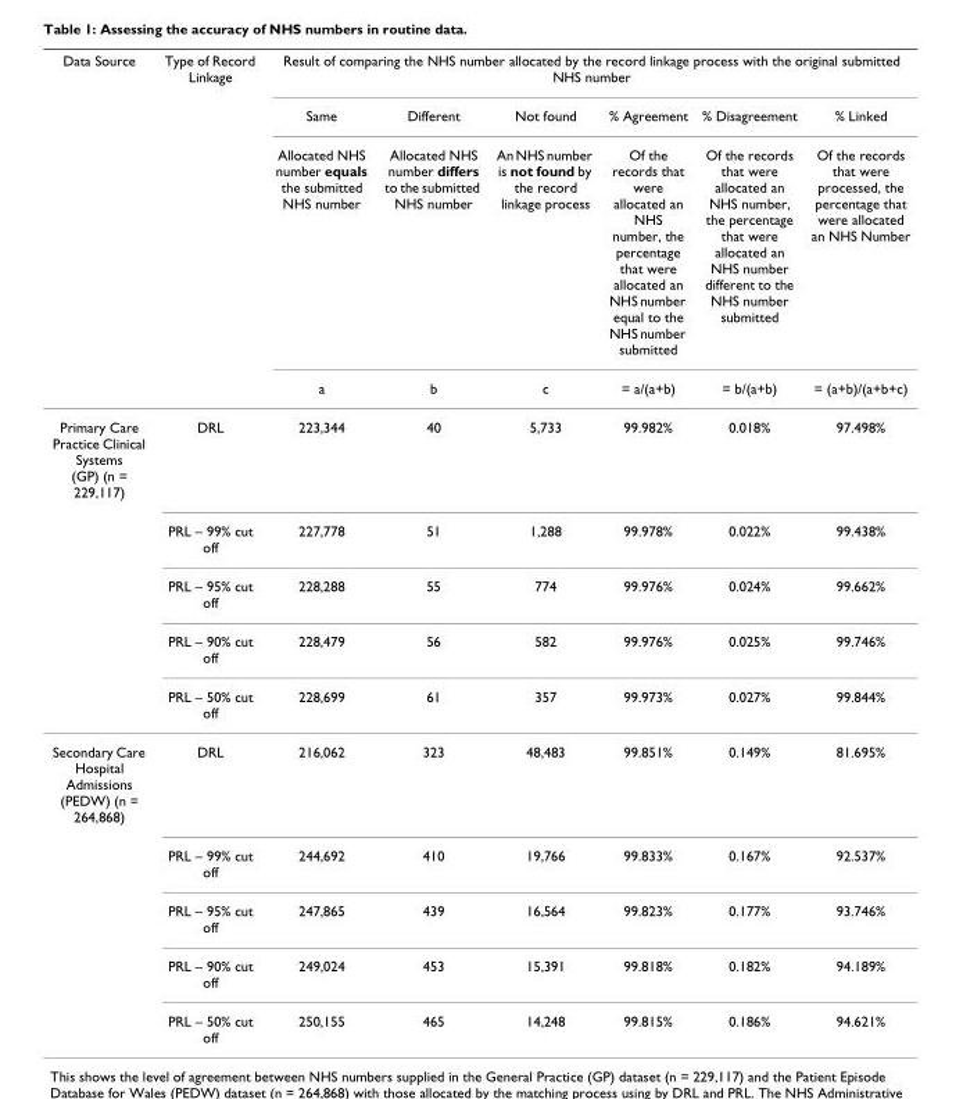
<table><thead><tr><td rowspan="4">Data Source</td><td rowspan="4">Type of Record Linkage</td><td colspan="6">Result of comparing the NHS number allocated by the record linkage process with the original submitted NHS number</td></tr><tr><td rowspan="3">Same Allocated NHS number equals the submitted NHS number a</td><td rowspan="3">Different Allocated NHS number differs to the submitted NHS number b</td><td rowspan="3">Not found An NHS number is not found by the record linkage process c</td><td rowspan="3">% Agreement Of the records that were allocated an NHS number, the percentage that were allocated an NHS number equal to the NHS number submitted = a/(a+b)</td><td rowspan="3">% Disagreement Of the records that were allocated an NHS number, the percentage that were allocated an NHS number different to the NHS number submitted = b/(a+b)</td><td rowspan="3">% Linked Of the records that were processed, the percentage that were allocated an NHS Number = (a+b)/(a+b+c)</td></tr><tr></tr><tr></tr></thead><tbody><tr><td rowspan="5">Primary Care Practice Clinical Systems (GP) (n = 229,117)</td><td>DRL</td><td>223,344</td><td>40</td><td>5,733</td><td>99.982%</td><td>0.018%</td><td>97.498%</td></tr><tr><td>PRL – 99% cut off</td><td>227,778</td><td>51</td><td>1,288</td><td>99.978%</td><td>0.022%</td><td>99.438%</td></tr><tr><td>PRL – 95% cut off</td><td>228,288</td><td>55</td><td>774</td><td>99.976%</td><td>0.024%</td><td>99.662%</td></tr><tr><td>PRL – 90% cut off</td><td>228,479</td><td>56</td><td>582</td><td>99.976%</td><td>0.025%</td><td>99.746%</td></tr><tr><td>PRL – 50% cut off</td><td>228,699</td><td>61</td><td>357</td><td>99.973%</td><td>0.027%</td><td>99.844%</td></tr><tr><td rowspan="5">Secondary Care Hospital Admissions (PEDW) (n = 264,868)</td><td>DRL</td><td>216,062</td><td>323</td><td>48,483</td><td>99.851%</td><td>0.149%</td><td>81.695%</td></tr><tr><td>PRL – 99% cut off</td><td>244,692</td><td>410</td><td>19,766</td><td>99.833%</td><td>0.167%</td><td>92.537%</td></tr><tr><td>PRL – 95% cut off</td><td>247,865</td><td>439</td><td>16,564</td><td>99.823%</td><td>0.177%</td><td>93.746%</td></tr><tr><td>PRL – 90% cut off</td><td>249,024</td><td>453</td><td>15,391</td><td>99.818%</td><td>0.182%</td><td>94.189%</td></tr><tr><td>PRL – 50% cut off</td><td>250,155</td><td>465</td><td>14,248</td><td>99.815%</td><td>0.186%</td><td>94.621%</td></tr></tbody></table>